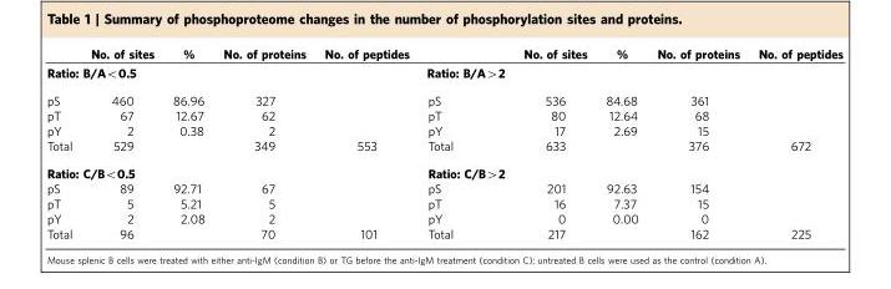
<table><thead><tr><td></td><td>No. of sites</td><td>%</td><td>No. of proteins</td><td>No. of peptides</td><td></td><td>No. of sites</td><td>%</td><td>No. of proteins</td><td>No. of peptides</td></tr></thead><tbody><tr><td colspan="5">Ratio: B/A&lt;0.5</td><td colspan="5">Ratio: B/A&gt;2</td></tr><tr><td>pS</td><td>460</td><td>86.96</td><td>327</td><td></td><td>pS</td><td>536</td><td>84.68</td><td>361</td><td></td></tr><tr><td>pT</td><td>67</td><td>12.67</td><td>62</td><td></td><td>pT</td><td>80</td><td>12.64</td><td>68</td><td></td></tr><tr><td>pY</td><td>2</td><td>0.38</td><td>2</td><td></td><td>pY</td><td>17</td><td>2.69</td><td>15</td><td></td></tr><tr><td>Total</td><td>529</td><td></td><td>349</td><td>553</td><td>Total</td><td>633</td><td></td><td>376</td><td>672</td></tr><tr><td colspan="5">Ratio: C/B&lt;0.5</td><td>Ratio: C/B&gt;2</td><td></td><td></td><td></td><td></td></tr><tr><td>pS</td><td>89</td><td>92.71</td><td>67</td><td></td><td>pS</td><td>201</td><td>92.63</td><td>154</td><td></td></tr><tr><td>pT</td><td>5</td><td>5.21</td><td>5</td><td></td><td>pT</td><td>16</td><td>7.37</td><td>15</td><td></td></tr><tr><td>pY</td><td>2</td><td>2.08</td><td>2</td><td></td><td>pY</td><td>0</td><td>0.00</td><td>0</td><td></td></tr><tr><td>Total</td><td>96</td><td></td><td>70</td><td>101</td><td>Total</td><td>217</td><td></td><td>162</td><td>225</td></tr></tbody></table>